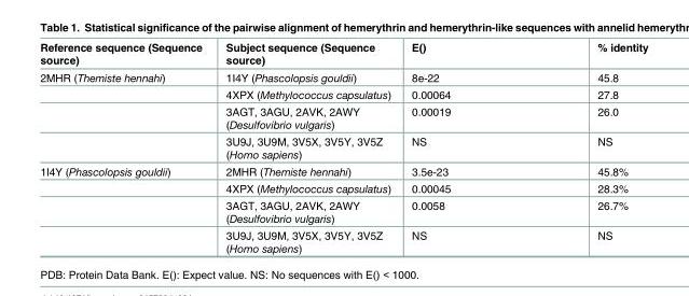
<table><thead><tr><td>Reference sequence (Sequence source)</td><td>Subject sequence (Sequence source)</td><td>E()</td><td>% identity</td></tr></thead><tbody><tr><td rowspan="4">2MHR (Themiste hennahi)</td><td>1I4Y (Phascolopsis gouldii)</td><td>8e-22</td><td>45.8</td></tr><tr><td>4XPX (Methylococcus capsulatus)</td><td>0.00064</td><td>27.8</td></tr><tr><td>3AGT, 3AGU, 2AVK, 2AWY (Desulfovibrio vulgaris)</td><td>0.00019</td><td>26.0</td></tr><tr><td>3U9J, 3U9M, 3V5X, 3V5Y, 3V5Z (Homo sapiens)</td><td>NS</td><td>NS</td></tr><tr><td rowspan="4">1I4Y (Phascolopsis gouldii)</td><td>2MHR (Themiste hennahi)</td><td>3.5e-23</td><td>45.8%</td></tr><tr><td>4XPX (Methylococcus capsulatus)</td><td>0.00045</td><td>28.3%</td></tr><tr><td>3AGT, 3AGU, 2AVK, 2AWY (Desulfovibrio vulgaris)</td><td>0.0058</td><td>26.7%</td></tr><tr><td>3U9J, 3U9M, 3V5X, 3V5Y, 3V5Z (Homo sapiens)</td><td>NS</td><td>NS</td></tr></tbody></table>